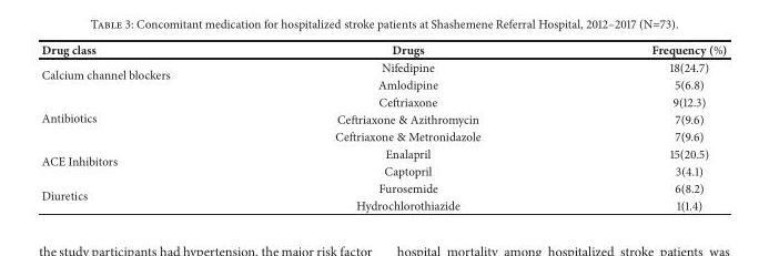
<table><thead><tr><td>Drug class</td><td>Drugs</td><td>Frequency (%)</td></tr></thead><tbody><tr><td rowspan="2">Calcium channel blockers</td><td>Nifedipine</td><td>18(24.7)</td></tr><tr><td>Amlodipine</td><td>5(6.8)</td></tr><tr><td rowspan="3">Antibiotics</td><td>Ceftriaxone</td><td>9(12.3)</td></tr><tr><td>Ceftriaxone &amp; Azithromycin</td><td>7(9.6)</td></tr><tr><td>Ceftriaxone &amp; Metronidazole</td><td>7(9.6)</td></tr><tr><td rowspan="2">ACE Inhibitors</td><td>Enalapril</td><td>15(20.5)</td></tr><tr><td>Captopril</td><td>3(4.1)</td></tr><tr><td rowspan="2">Diuretics</td><td>Furosemide</td><td>6(8.2)</td></tr><tr><td>Hydrochlorothiazide</td><td>1(1.4)</td></tr></tbody></table>